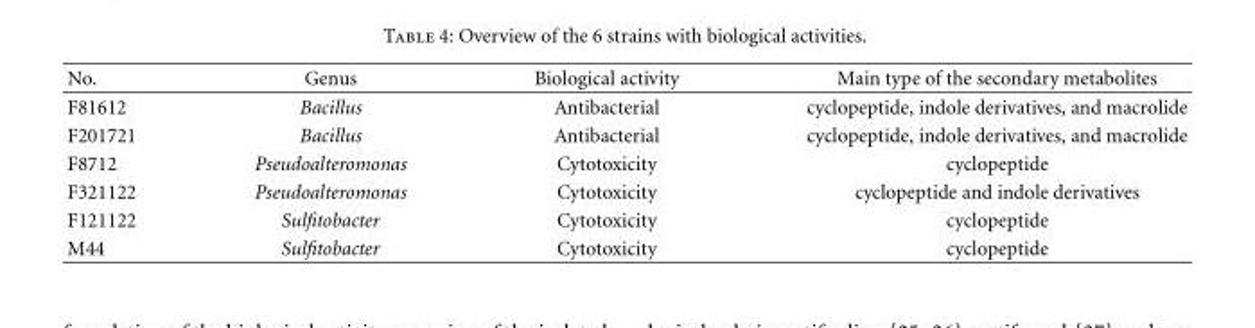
<table><thead><tr><td>No.</td><td>Genus</td><td>Biological activity</td><td>Main type of the secondary metabolites</td></tr></thead><tbody><tr><td>F81612</td><td>Bacillus</td><td>Antibacterial</td><td>cyclopeptide, indole derivatives, and macrolide</td></tr><tr><td>F201721</td><td>Bacillus</td><td>Antibacterial</td><td>cyclopeptide, indole derivatives, and macrolide</td></tr><tr><td>F8712</td><td>Pseudoalteromonas</td><td>Cytotoxicity</td><td>cyclopeptide</td></tr><tr><td>F321122</td><td>Pseudoalteromonas</td><td>Cytotoxicity</td><td>cyclopeptide and indole derivatives</td></tr><tr><td>F121122</td><td>Sulfitobacter</td><td>Cytotoxicity</td><td>cyclopeptide</td></tr><tr><td>M44</td><td>Sulfitobacter</td><td>Cytotoxicity</td><td>cyclopeptide</td></tr></tbody></table>